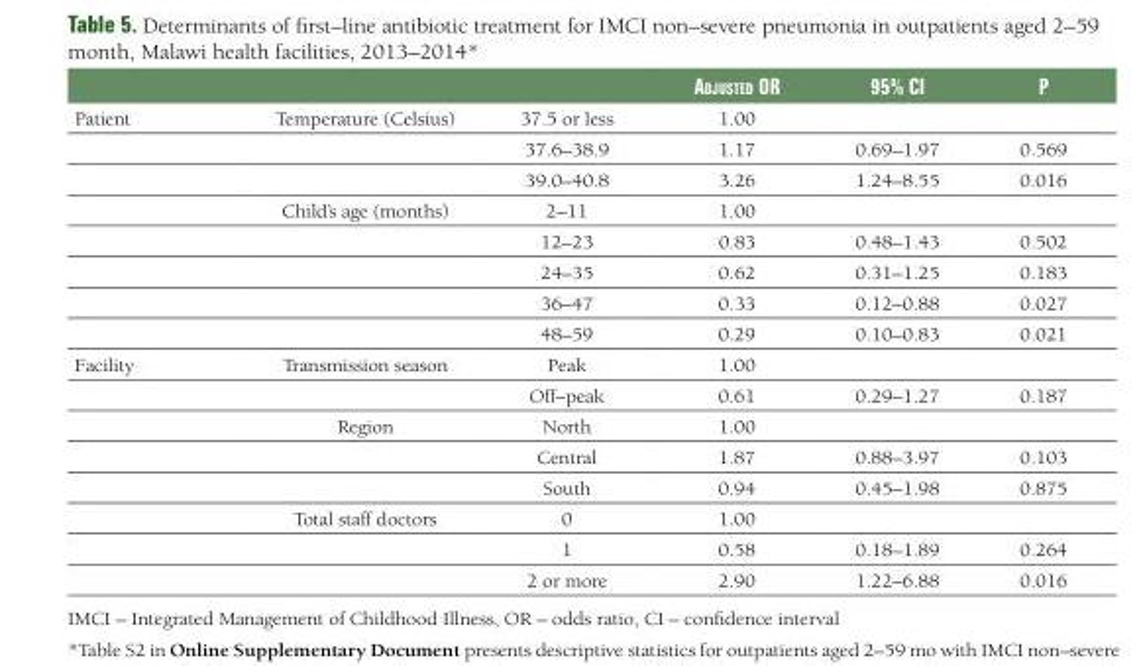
<table><thead><tr><td></td><td></td><td></td><td>adjusted Or</td><td>95% Ci</td><td>p</td></tr></thead><tbody><tr><td rowspan="8">Patient</td><td>Temperature (Celsius)</td><td>37.5 or less</td><td>1.00</td><td></td><td></td></tr><tr><td></td><td>37.6–38.9</td><td>1.17</td><td>0.69–1.97</td><td>0.569</td></tr><tr><td></td><td>39.0–40.8</td><td>3.26</td><td>1.24–8.55</td><td>0.016</td></tr><tr><td>Child’s age (months)</td><td>2–11</td><td>1.00</td><td></td><td></td></tr><tr><td></td><td>12–23</td><td>0.83</td><td>0.48–1.43</td><td>0.502</td></tr><tr><td></td><td>24–35</td><td>0.62</td><td>0.31–1.25</td><td>0.183</td></tr><tr><td></td><td>36–47</td><td>0.33</td><td>0.12–0.88</td><td>0.027</td></tr><tr><td></td><td>48–59</td><td>0.29</td><td>0.10–0.83</td><td>0.021</td></tr><tr><td rowspan="8">Facility</td><td>Transmission season</td><td>Peak</td><td>1.00</td><td></td><td></td></tr><tr><td></td><td>Off–peak</td><td>0.61</td><td>0.29–1.27</td><td>0.187</td></tr><tr><td>Region</td><td>North</td><td>1.00</td><td></td><td></td></tr><tr><td></td><td>Central</td><td>1.87</td><td>0.88–3.97</td><td>0.103</td></tr><tr><td></td><td>South</td><td>0.94</td><td>0.45–1.98</td><td>0.875</td></tr><tr><td>Total staff doctors</td><td>0</td><td>1.00</td><td></td><td></td></tr><tr><td></td><td>1</td><td>0.58</td><td>0.18–1.89</td><td>0.264</td></tr><tr><td></td><td>2 or more</td><td>2.90</td><td>1.22–6.88</td><td>0.016</td></tr></tbody></table>